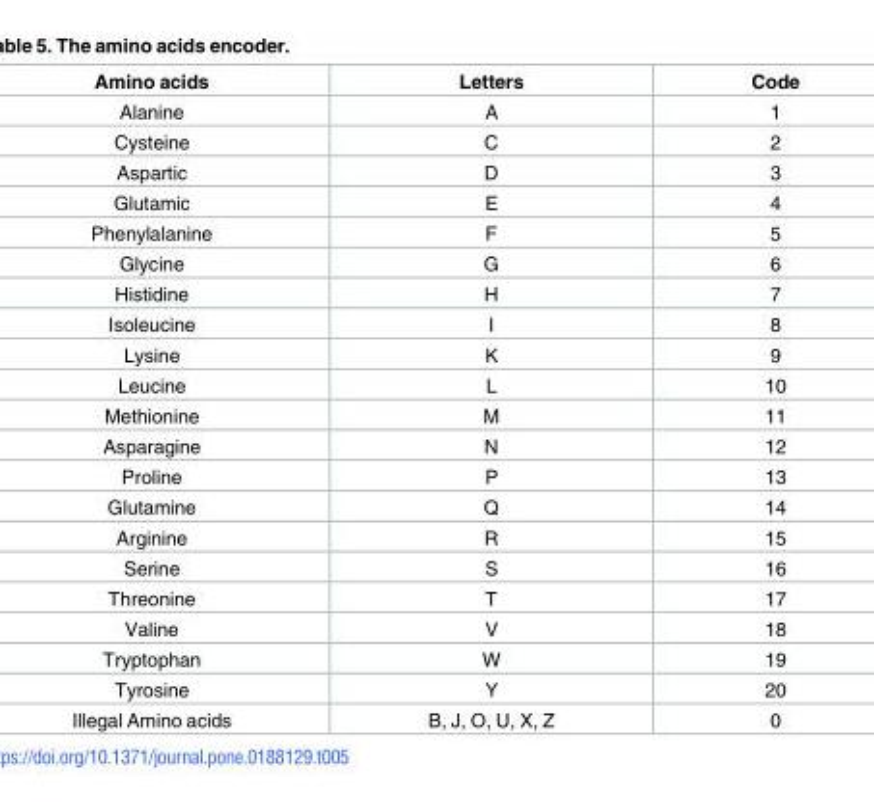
<table><thead><tr><td>Amino acids</td><td>Letters</td><td>Code</td></tr></thead><tbody><tr><td>Alanine</td><td>A</td><td>1</td></tr><tr><td>Cysteine</td><td>C</td><td>2</td></tr><tr><td>Aspartic</td><td>D</td><td>3</td></tr><tr><td>Glutamic</td><td>E</td><td>4</td></tr><tr><td>Phenylalanine</td><td>F</td><td>5</td></tr><tr><td>Glycine</td><td>G</td><td>6</td></tr><tr><td>Histidine</td><td>H</td><td>7</td></tr><tr><td>Isoleucine</td><td>I</td><td>8</td></tr><tr><td>Lysine</td><td>K</td><td>9</td></tr><tr><td>Leucine</td><td>L</td><td>10</td></tr><tr><td>Methionine</td><td>M</td><td>11</td></tr><tr><td>Asparagine</td><td>N</td><td>12</td></tr><tr><td>Proline</td><td>P</td><td>13</td></tr><tr><td>Glutamine</td><td>Q</td><td>14</td></tr><tr><td>Arginine</td><td>R</td><td>15</td></tr><tr><td>Serine</td><td>S</td><td>16</td></tr><tr><td>Threonine</td><td>T</td><td>17</td></tr><tr><td>Valine</td><td>V</td><td>18</td></tr><tr><td>Tryptophan</td><td>W</td><td>19</td></tr><tr><td>Tyrosine</td><td>Y</td><td>20</td></tr><tr><td>Illegal Amino acids</td><td>B, J, O, U, X, Z</td><td>0</td></tr></tbody></table>